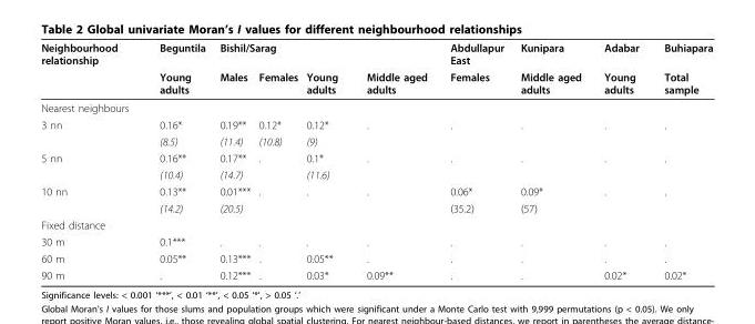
<table><thead><tr><td rowspan="2">Neighbourhood relationship</td><td rowspan="2">Beguntila Young adults</td><td colspan="4">Bishil/Sarag</td><td rowspan="2">Abdullapur East Females</td><td rowspan="2">Kunipara Middle aged adults</td><td rowspan="2">Adabar Young adults</td><td rowspan="2">Buhiapara Total sample</td></tr><tr><td>Males</td><td>Females</td><td>Young adults</td><td>Middle aged adults</td></tr></thead><tbody><tr><td colspan="10">Nearest neighbours</td></tr><tr><td rowspan="2">3 nn</td><td>0.16*</td><td>0.19**</td><td>0.12*</td><td>0.12*</td><td>.</td><td>.</td><td>.</td><td>.</td><td>.</td></tr><tr><td>(8.5)</td><td>(11.4)</td><td>(10.8)</td><td>(9)</td><td></td><td></td><td></td><td></td><td></td></tr><tr><td rowspan="2">5 nn</td><td>0.16**</td><td>0.17**</td><td>.</td><td>0.1*</td><td>.</td><td>.</td><td>.</td><td>.</td><td>.</td></tr><tr><td>(10.4)</td><td>(14.7)</td><td></td><td>(11.6)</td><td></td><td></td><td></td><td></td><td></td></tr><tr><td rowspan="2">10 nn</td><td>0.13**</td><td>0.01***</td><td>.</td><td>.</td><td>.</td><td>0.06*</td><td>0.09*</td><td>.</td><td>.</td></tr><tr><td>(14.2)</td><td>(20.5)</td><td></td><td></td><td></td><td>(35.2)</td><td>(57)</td><td></td><td></td></tr><tr><td colspan="10">Fixed distance</td></tr><tr><td>30 m</td><td>0.1***</td><td>.</td><td>.</td><td>.</td><td>.</td><td>.</td><td>.</td><td>.</td><td>.</td></tr><tr><td>60 m</td><td>0.05**</td><td>0.13***</td><td>.</td><td>0.05**</td><td>.</td><td>.</td><td>.</td><td>.</td><td>.</td></tr><tr><td>90 m</td><td>.</td><td>0.12***</td><td>.</td><td>0.03*</td><td>0.09**</td><td>.</td><td>.</td><td>0.02*</td><td>0.02*</td></tr></tbody></table>